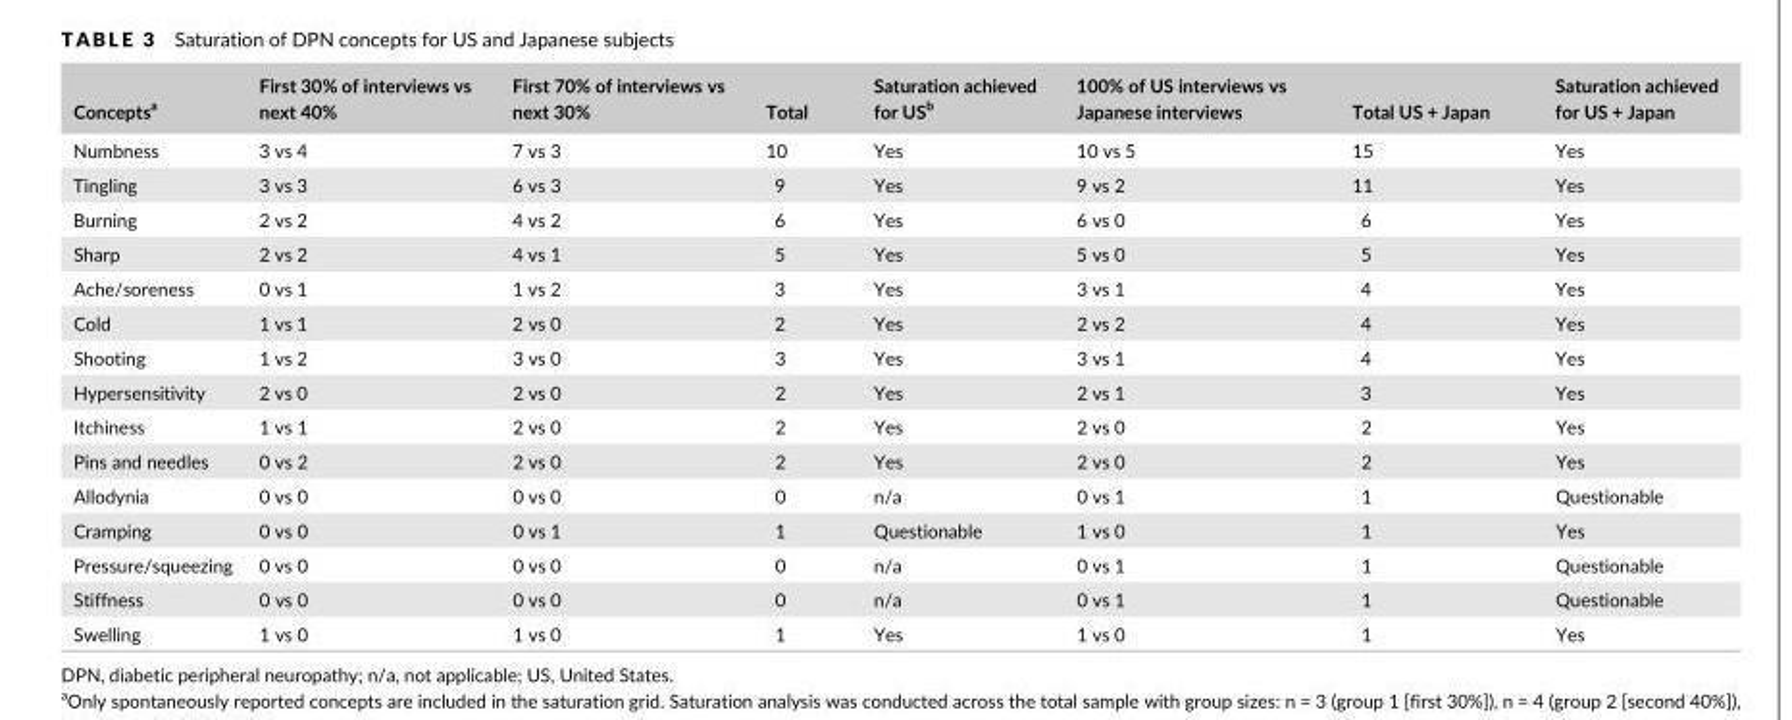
<table><thead><tr><td>Concepts<sup>a</sup></td><td>First 30% of interviews vs next 40%</td><td>First 70% of interviews vs next 30%</td><td>Total</td><td>Saturation achieved for US<sup>b</sup></td><td>100% of US interviews vs Japanese interviews</td><td>Total US + Japan</td><td>Saturation achieved for US + Japan</td></tr></thead><tbody><tr><td>Numbness</td><td>3 vs 4</td><td>7 vs 3</td><td>10</td><td>Yes</td><td>10 vs 5</td><td>15</td><td>Yes</td></tr><tr><td>Tingling</td><td>3 vs 3</td><td>6 vs 3</td><td>9</td><td>Yes</td><td>9 vs 2</td><td>11</td><td>Yes</td></tr><tr><td>Burning</td><td>2 vs 2</td><td>4 vs 2</td><td>6</td><td>Yes</td><td>6 vs 0</td><td>6</td><td>Yes</td></tr><tr><td>Sharp</td><td>2 vs 2</td><td>4 vs 1</td><td>5</td><td>Yes</td><td>5 vs 0</td><td>5</td><td>Yes</td></tr><tr><td>Ache/soreness</td><td>0 vs 1</td><td>1 vs 2</td><td>3</td><td>Yes</td><td>3 vs 1</td><td>4</td><td>Yes</td></tr><tr><td>Cold</td><td>1 vs 1</td><td>2 vs 0</td><td>2</td><td>Yes</td><td>2 vs 2</td><td>4</td><td>Yes</td></tr><tr><td>Shooting</td><td>1 vs 2</td><td>3 vs 0</td><td>3</td><td>Yes</td><td>3 vs 1</td><td>4</td><td>Yes</td></tr><tr><td>Hypersensitivity</td><td>2 vs 0</td><td>2 vs 0</td><td>2</td><td>Yes</td><td>2 vs 1</td><td>3</td><td>Yes</td></tr><tr><td>Itchiness</td><td>1 vs 1</td><td>2 vs 0</td><td>2</td><td>Yes</td><td>2 vs 0</td><td>2</td><td>Yes</td></tr><tr><td>Pins and needles</td><td>0 vs 2</td><td>2 vs 0</td><td>2</td><td>Yes</td><td>2 vs 0</td><td>2</td><td>Yes</td></tr><tr><td>Allodynia</td><td>0 vs 0</td><td>0 vs 0</td><td>0</td><td>n/a</td><td>0 vs 1</td><td>1</td><td>Questionable</td></tr><tr><td>Cramping</td><td>0 vs 0</td><td>0 vs 1</td><td>1</td><td>Questionable</td><td>1 vs 0</td><td>1</td><td>Yes</td></tr><tr><td>Pressure/squeezing</td><td>0 vs 0</td><td>0 vs 0</td><td>0</td><td>n/a</td><td>0 vs 1</td><td>1</td><td>Questionable</td></tr><tr><td>Stiffness</td><td>0 vs 0</td><td>0 vs 0</td><td>0</td><td>n/a</td><td>0 vs 1</td><td>1</td><td>Questionable</td></tr><tr><td>Swelling</td><td>1 vs 0</td><td>1 vs 0</td><td>1</td><td>Yes</td><td>1 vs 0</td><td>1</td><td>Yes</td></tr></tbody></table>